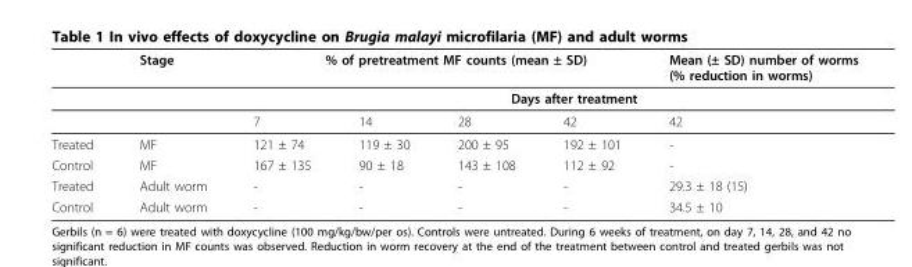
<table><thead><tr><td rowspan="3"></td><td rowspan="3">Stage</td><td colspan="4">% of pretreatment MF counts (mean ± SD)</td><td>Mean (± SD) number of worms (% reduction in worms)</td></tr><tr><td colspan="5">Days after treatment</td></tr><tr><td>7</td><td>14</td><td>28</td><td>42</td><td>42</td></tr></thead><tbody><tr><td>Treated</td><td>MF</td><td>121 ± 74</td><td>119 ± 30</td><td>200 ± 95</td><td>192 ± 101</td><td>-</td></tr><tr><td>Control</td><td>MF</td><td>167 ± 135</td><td>90 ± 18</td><td>143 ± 108</td><td>112 ± 92</td><td>-</td></tr><tr><td>Treated</td><td>Adult worm</td><td>-</td><td>-</td><td>-</td><td>-</td><td>29.3 ± 18 (15)</td></tr><tr><td>Control</td><td>Adult worm</td><td>-</td><td>-</td><td>-</td><td>-</td><td>34.5 ± 10</td></tr></tbody></table>